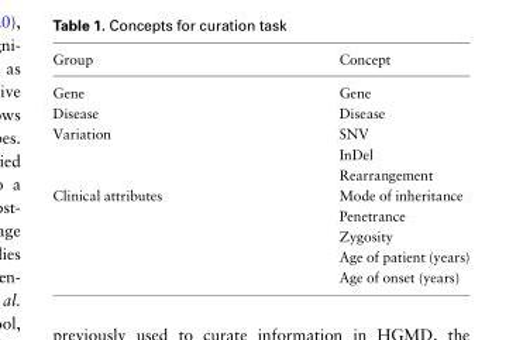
<table><thead><tr><td>Group</td><td>Concept</td></tr></thead><tbody><tr><td>Gene</td><td>Gene</td></tr><tr><td>Disease</td><td>Disease</td></tr><tr><td rowspan="3">Variation</td><td>SNV</td></tr><tr><td>InDel</td></tr><tr><td>Rearrangement</td></tr><tr><td rowspan="5">Clinical attributes</td><td>Mode of inheritance</td></tr><tr><td>Penetrance</td></tr><tr><td>Zygosity</td></tr><tr><td>Age of patient (years)</td></tr><tr><td>Age of onset (years)</td></tr></tbody></table>